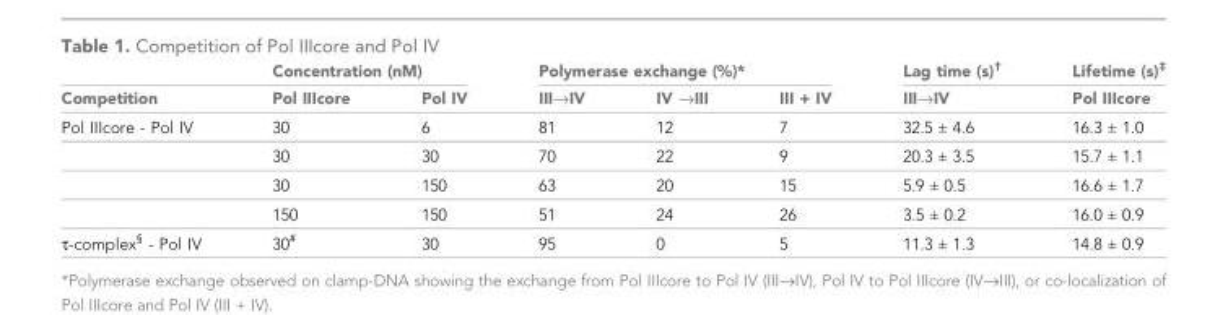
<table><thead><tr><td rowspan="2">Competition</td><td colspan="2">Concentration (nM)</td><td colspan="3">Polymerase exchange (%)*</td><td rowspan="2">Lag time (s)† IIIfiIV</td><td rowspan="2">Lifetime (s)<sup>‡</sup> Pol IIIcore</td></tr><tr><td>Pol IIIcore</td><td>Pol IV</td><td>IIIfiIV</td><td>IV fiIII</td><td>III + IV</td></tr></thead><tbody><tr><td rowspan="4">Pol IIIcore - Pol IV</td><td>30</td><td>6</td><td>81</td><td>12</td><td>7</td><td>32.5 ± 4.6</td><td>16.3 ± 1.0</td></tr><tr><td>30</td><td>30</td><td>70</td><td>22</td><td>9</td><td>20.3 ± 3.5</td><td>15.7 ± 1.1</td></tr><tr><td>30</td><td>150</td><td>63</td><td>20</td><td>15</td><td>5.9 ± 0.5</td><td>16.6 ± 1.7</td></tr><tr><td>150</td><td>150</td><td>51</td><td>24</td><td>26</td><td>3.5 ± 0.2</td><td>16.0 ± 0.9</td></tr><tr><td>τ-complex<sup>§</sup> - Pol IV</td><td>30<sup>#</sup></td><td>30</td><td>95</td><td>0</td><td>5</td><td>11.3 ± 1.3</td><td>14.8 ± 0.9</td></tr></tbody></table>